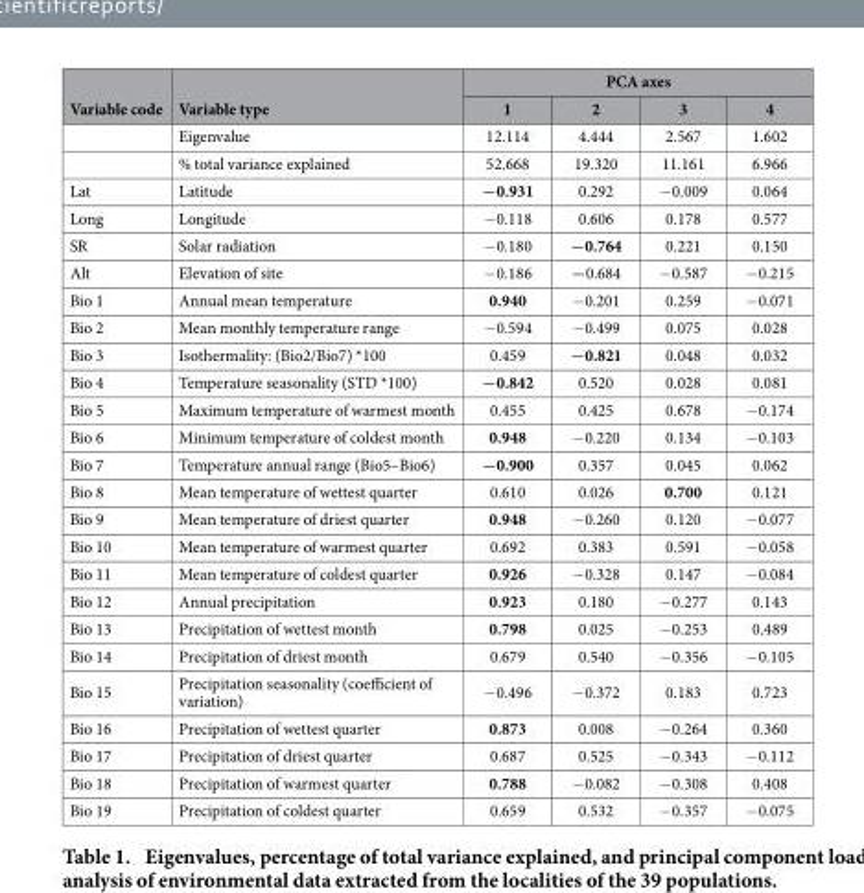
<table><thead><tr><td rowspan="2">Variable code</td><td rowspan="2">Variable type</td><td colspan="4">PCA axes</td></tr><tr><td>1</td><td>2</td><td>3</td><td>4</td></tr></thead><tbody><tr><td></td><td>Eigenvalue</td><td>12.114</td><td>4.444</td><td>2.567</td><td>1.602</td></tr><tr><td></td><td>% total variance explained</td><td>52.668</td><td>19.320</td><td>11.161</td><td>6.966</td></tr><tr><td>Lat</td><td>Latitude</td><td>−0.931</td><td>0.292</td><td>− 0.009</td><td>0.064</td></tr><tr><td>Long</td><td>Longitude</td><td>− 0.118</td><td>0.606</td><td>0.178</td><td>0.577</td></tr><tr><td>SR</td><td>Solar radiation</td><td>− 0.180</td><td>−0.764</td><td>0.221</td><td>0.150</td></tr><tr><td>Alt</td><td>Elevation of site</td><td>− 0.186</td><td>−0.684</td><td>− 0.587</td><td>− 0.215</td></tr><tr><td>Bio 1</td><td>Annual mean temperature</td><td>0.940</td><td>− 0.201</td><td>0.259</td><td>− 0.071</td></tr><tr><td>Bio 2</td><td>Mean monthly temperature range</td><td>− 0.594</td><td>− 0.499</td><td>0.075</td><td>0.028</td></tr><tr><td>Bio 3</td><td>Isothermality: (Bio2/Bio7) *100</td><td>0.459</td><td>−0.821</td><td>0.048</td><td>0.032</td></tr><tr><td>Bio 4</td><td>Temperature seasonality (STD *100)</td><td>−0.842</td><td>0.520</td><td>0.028</td><td>0.081</td></tr><tr><td>Bio 5</td><td>Maximum temperature of warmest month</td><td>0.455</td><td>0.425</td><td>0.678</td><td>− 0.174</td></tr><tr><td>Bio 6</td><td>Minimum temperature of coldest month</td><td>0.948</td><td>− 0.220</td><td>0.134</td><td>− 0.103</td></tr><tr><td>Bio 7</td><td>Temperature annual range (Bio5–Bio6)</td><td>−0.900</td><td>0.357</td><td>0.045</td><td>0.062</td></tr><tr><td>Bio 8</td><td>Mean temperature of wettest quarter</td><td>0.610</td><td>0.026</td><td>0.700</td><td>0.121</td></tr><tr><td>Bio 9</td><td>Mean temperature of driest quarter</td><td>0.948</td><td>− 0.260</td><td>0.120</td><td>− 0.077</td></tr><tr><td>Bio 10</td><td>Mean temperature of warmest quarter</td><td>0.692</td><td>0.383</td><td>0.591</td><td>− 0.058</td></tr><tr><td>Bio 11</td><td>Mean temperature of coldest quarter</td><td>0.926</td><td>− 0.328</td><td>0.147</td><td>− 0.084</td></tr><tr><td>Bio 12</td><td>Annual precipitation</td><td>0.923</td><td>0.180</td><td>− 0.277</td><td>0.143</td></tr><tr><td>Bio 13</td><td>Precipitation of wettest month</td><td>0.798</td><td>0.025</td><td>− 0.253</td><td>0.489</td></tr><tr><td>Bio 14</td><td>Precipitation of driest month</td><td>0.679</td><td>0.540</td><td>− 0.356</td><td>− 0.105</td></tr><tr><td>Bio 15</td><td>Precipitation seasonality (coefficient of variation)</td><td>− 0.496</td><td>− 0.372</td><td>0.183</td><td>0.723</td></tr><tr><td>Bio 16</td><td>Precipitation of wettest quarter</td><td>0.873</td><td>0.008</td><td>− 0.264</td><td>0.360</td></tr><tr><td>Bio 17</td><td>Precipitation of driest quarter</td><td>0.687</td><td>0.525</td><td>− 0.343</td><td>− 0.112</td></tr><tr><td>Bio 18</td><td>Precipitation of warmest quarter</td><td>0.788</td><td>− 0.082</td><td>− 0.308</td><td>0.408</td></tr><tr><td>Bio 19</td><td>Precipitation of coldest quarter</td><td>0.659</td><td>0.532</td><td>− 0.357</td><td>− 0.075</td></tr></tbody></table>